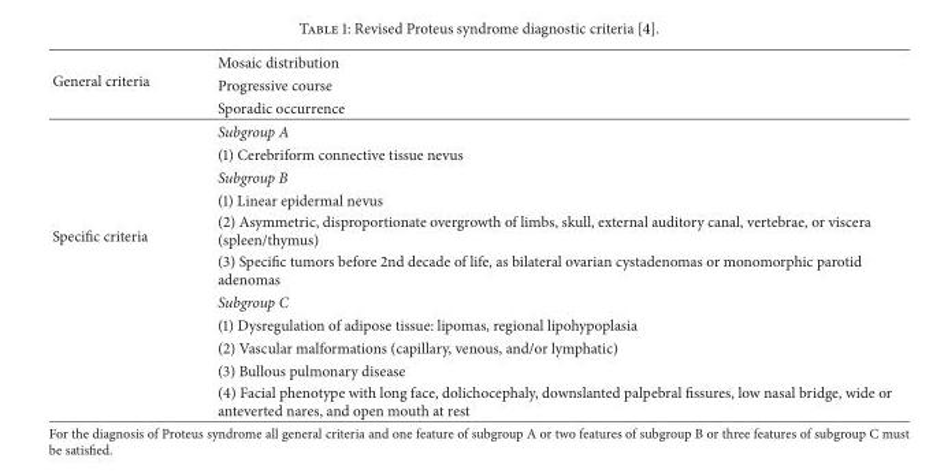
<table><tbody><tr><td rowspan="3">General criteria</td><td>Mosaic distribution</td></tr><tr><td>Progressive course</td></tr><tr><td>Sporadic occurrence</td></tr><tr><td rowspan="11">Specific criteria</td><td>Subgroup A</td></tr><tr><td>(1) Cerebriform connective tissue nevus</td></tr><tr><td>Subgroup B</td></tr><tr><td>(1) Linear epidermal nevus</td></tr><tr><td>(2) Asymmetric, disproportionate overgrowth of limbs, skull, external auditory canal, vertebrae, or viscera (spleen/thymus)</td></tr><tr><td>(3) Specific tumors before 2nd decade of life, as bilateral ovarian cystadenomas or monomorphic parotid adenomas</td></tr><tr><td>Subgroup C</td></tr><tr><td>(1) Dysregulation of adipose tissue: lipomas, regional lipohypoplasia</td></tr><tr><td>(2) Vascular malformations (capillary, venous, and/or lymphatic)</td></tr><tr><td>(3) Bullous pulmonary disease</td></tr><tr><td>(4) Facial phenotype with long face, dolichocephaly, downslanted palpebral fissures, low nasal bridge, wide or anteverted nares, and open mouth at rest</td></tr></tbody></table>